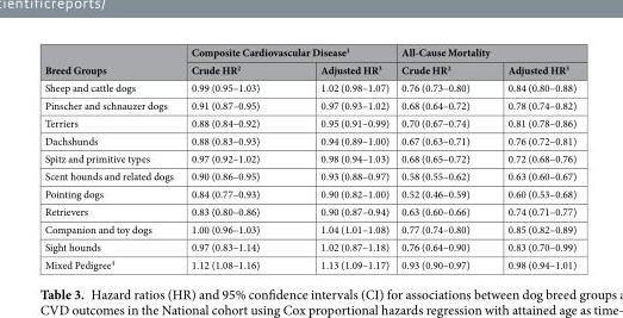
<table><thead><tr><td rowspan="2">Breed Groups</td><td colspan="2">Composite Cardiovascular Disease<sup>1</sup></td><td colspan="2">All-Cause Mortality</td></tr><tr><td>Crude HR<sup>2</sup></td><td>Adjusted HR<sup>3</sup></td><td>Crude HR<sup>2</sup></td><td>Adjusted HR<sup>3</sup></td></tr></thead><tbody><tr><td>Sheep and cattle dogs</td><td>0.99 (0.95–1.03)</td><td>1.02 (0.98–1.07)</td><td>0.76 (0.73–0.80)</td><td>0.84 (0.80–0.88)</td></tr><tr><td>Pinscher and schnauzer dogs</td><td>0.91 (0.87–0.95)</td><td>0.97 (0.93–1.02)</td><td>0.68 (0.64–0.72)</td><td>0.78 (0.74–0.82)</td></tr><tr><td>Terriers</td><td>0.88 (0.84–0.92)</td><td>0.95 (0.91–0.99)</td><td>0.70 (0.67–0.74)</td><td>0.81 (0.78–0.86)</td></tr><tr><td>Dachshunds</td><td>0.88 (0.83–0.93)</td><td>0.94 (0.89–1.00)</td><td>0.67 (0.63–0.71)</td><td>0.76 (0.72–0.81)</td></tr><tr><td>Spitz and primitive types</td><td>0.97 (0.92–1.02)</td><td>0.98 (0.94–1.03)</td><td>0.68 (0.65–0.72)</td><td>0.72 (0.68–0.76)</td></tr><tr><td>Scent hounds and related dogs</td><td>0.90 (0.86–0.95)</td><td>0.93 (0.88–0.97)</td><td>0.58 (0.55–0.62)</td><td>0.63 (0.60–0.67)</td></tr><tr><td>Pointing dogs</td><td>0.84 (0.77–0.93)</td><td>0.90 (0.82–1.00)</td><td>0.52 (0.46–0.59)</td><td>0.60 (0.53–0.68)</td></tr><tr><td>Retrievers</td><td>0.83 (0.80–0.86)</td><td>0.90 (0.87–0.94)</td><td>0.63 (0.60–0.66)</td><td>0.74 (0.71–0.77)</td></tr><tr><td>Companion and toy dogs</td><td>1.00 (0.96–1.03)</td><td>1.04 (1.01–1.08)</td><td>0.77 (0.74–0.80)</td><td>0.85 (0.82–0.89)</td></tr><tr><td>Sight hounds</td><td>0.97 (0.83–1.14)</td><td>1.02 (0.87–1.18)</td><td>0.76 (0.64–0.90)</td><td>0.83 (0.70–0.99)</td></tr><tr><td>Mixed Pedigree<sup>4</sup></td><td>1.12 (1.08–1.16)</td><td>1.13 (1.09–1.17)</td><td>0.93 (0.90–0.97)</td><td>0.98 (0.94–1.01)</td></tr></tbody></table>